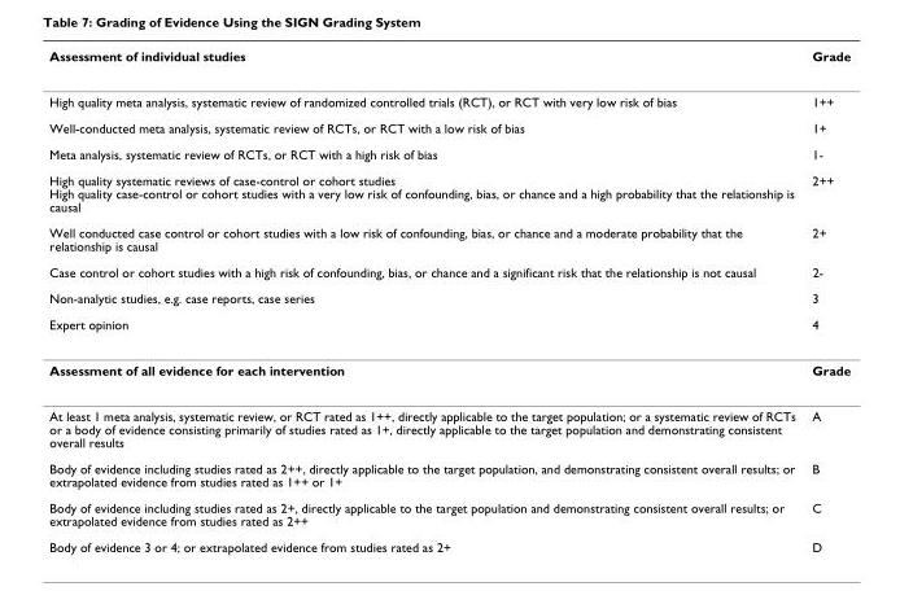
<table><thead><tr><td>Assessment of individual studies</td><td>Grade</td></tr></thead><tbody><tr><td>High quality meta analysis, systematic review of randomized controlled trials (RCT), or RCT with very low risk of bias</td><td>1++</td></tr><tr><td>Well-conducted meta analysis, systematic review of RCTs, or RCT with a low risk of bias</td><td>1+</td></tr><tr><td>Meta analysis, systematic review of RCTs, or RCT with a high risk of bias</td><td>1-</td></tr><tr><td>High quality systematic reviews of case-control or cohort studies High quality case-control or cohort studies with a very low risk of confounding, bias, or chance and a high probability that the relationship is causal</td><td>2++</td></tr><tr><td>Well conducted case control or cohort studies with a low risk of confounding, bias, or chance and a moderate probability that the relationship is causal</td><td>2+</td></tr><tr><td>Case control or cohort studies with a high risk of confounding, bias, or chance and a significant risk that the relationship is not causal</td><td>2-</td></tr><tr><td>Non-analytic studies, e.g. case reports, case series</td><td>3</td></tr><tr><td>Expert opinion</td><td>4</td></tr><tr><td>Assessment of all evidence for each intervention</td><td>Grade</td></tr><tr><td>At least 1 meta analysis, systematic review, or RCT rated as 1++, directly applicable to the target population; or a systematic review of RCTs or a body of evidence consisting primarily of studies rated as 1+, directly applicable to the target population and demonstrating consistent overall results</td><td>A</td></tr><tr><td>Body of evidence including studies rated as 2++, directly applicable to the target population, and demonstrating consistent overall results; or extrapolated evidence from studies rated as 1++ or 1+</td><td>B</td></tr><tr><td>Body of evidence including studies rated as 2+, directly applicable to the target population and demonstrating consistent overall results; or extrapolated evidence from studies rated as 2++</td><td>C</td></tr><tr><td>Body of evidence 3 or 4; or extrapolated evidence from studies rated as 2+</td><td>D</td></tr></tbody></table>